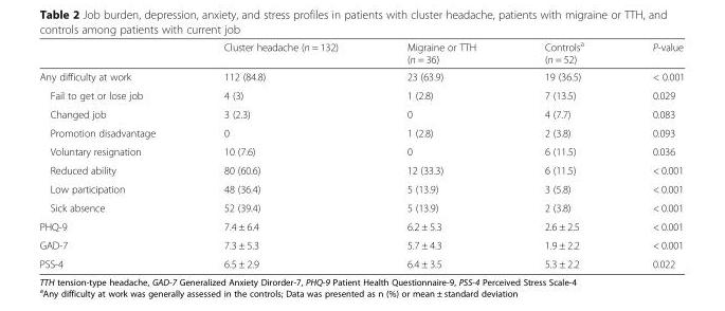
<table><thead><tr><td></td><td>Cluster headache (n = 132)</td><td>Migraine or TTH (n = 36)</td><td>Controls<sup>a</sup> (n = 52)</td><td>P-value</td></tr></thead><tbody><tr><td>Any difficulty at work</td><td>112 (84.8)</td><td>23 (63.9)</td><td>19 (36.5)</td><td>&lt; 0.001</td></tr><tr><td>Fail to get or lose job</td><td>4 (3)</td><td>1 (2.8)</td><td>7 (13.5)</td><td>0.029</td></tr><tr><td>Changed job</td><td>3 (2.3)</td><td>0</td><td>4 (7.7)</td><td>0.083</td></tr><tr><td>Promotion disadvantage</td><td>0</td><td>1 (2.8)</td><td>2 (3.8)</td><td>0.093</td></tr><tr><td>Voluntary resignation</td><td>10 (7.6)</td><td>0</td><td>6 (11.5)</td><td>0.036</td></tr><tr><td>Reduced ability</td><td>80 (60.6)</td><td>12 (33.3)</td><td>6 (11.5)</td><td>&lt; 0.001</td></tr><tr><td>Low participation</td><td>48 (36.4)</td><td>5 (13.9)</td><td>3 (5.8)</td><td>&lt; 0.001</td></tr><tr><td>Sick absence</td><td>52 (39.4)</td><td>5 (13.9)</td><td>2 (3.8)</td><td>&lt; 0.001</td></tr><tr><td>PHQ-9</td><td>7.4 ± 6.4</td><td>6.2 ± 5.3</td><td>2.6 ± 2.5</td><td>&lt; 0.001</td></tr><tr><td>GAD-7</td><td>7.3 ± 5.3</td><td>5.7 ± 4.3</td><td>1.9 ± 2.2</td><td>&lt; 0.001</td></tr><tr><td>PSS-4</td><td>6.5 ± 2.9</td><td>6.4 ± 3.5</td><td>5.3 ± 2.2</td><td>0.022</td></tr></tbody></table>